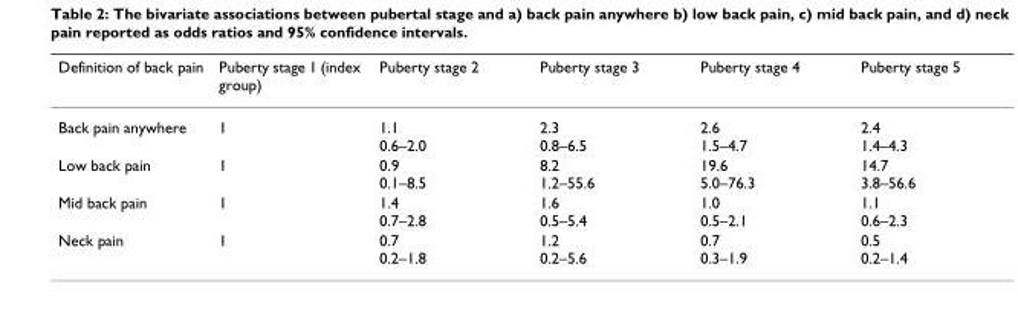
<table><thead><tr><td>Definition of back pain</td><td>Puberty stage 1 (index group)</td><td>Puberty stage 2</td><td>Puberty stage 3</td><td>Puberty stage 4</td><td>Puberty stage 5</td></tr></thead><tbody><tr><td>Back pain anywhere</td><td>1</td><td>1.1 0.6–2.0</td><td>2.3 0.8–6.5</td><td>2.6 1.5–4.7</td><td>2.4 1.4–4.3</td></tr><tr><td>Low back pain</td><td>1</td><td>0.9 0.1–8.5</td><td>8.2 1.2–55.6</td><td>19.6 5.0–76.3</td><td>14.7 3.8–56.6</td></tr><tr><td>Mid back pain</td><td>1</td><td>1.4 0.7–2.8</td><td>1.6 0.5–5.4</td><td>1.0 0.5–2.1</td><td>1.1 0.6–2.3</td></tr><tr><td>Neck pain</td><td>1</td><td>0.7 0.2–1.8</td><td>1.2 0.2–5.6</td><td>0.7 0.3–1.9</td><td>0.5 0.2–1.4</td></tr></tbody></table>